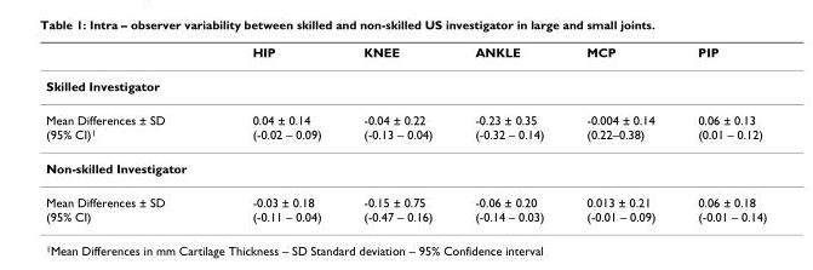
<table><thead><tr><td></td><td>HIP</td><td>KNEE</td><td>ANKLE</td><td>MCP</td><td>PIP</td></tr></thead><tbody><tr><td colspan="6">Skilled Investigator</td></tr><tr><td>Mean Differences ± SD (95% CI)<sup>1</sup></td><td>0.04 ± 0.14 (-0.02 – 0.09)</td><td>-0.04 ± 0.22 (-0.13 – 0.04)</td><td>-0.23 ± 0.35 (-0.32 – 0.14)</td><td>-0.004 ± 0.14 (0.22–0.38)</td><td>0.06 ± 0.13 (0.01 – 0.12)</td></tr><tr><td colspan="6">Non-skilled Investigator</td></tr><tr><td>Mean Differences ± SD (95% CI)</td><td>-0.03 ± 0.18 (-0.11 – 0.04)</td><td>-0.15 ± 0.75 (-0.47 – 0.16)</td><td>-0.06 ± 0.20 (-0.14 – 0.03)</td><td>0.013 ± 0.21 (-0.01 – 0.09)</td><td>0.06 ± 0.18 (-0.01 – 0.14)</td></tr></tbody></table>